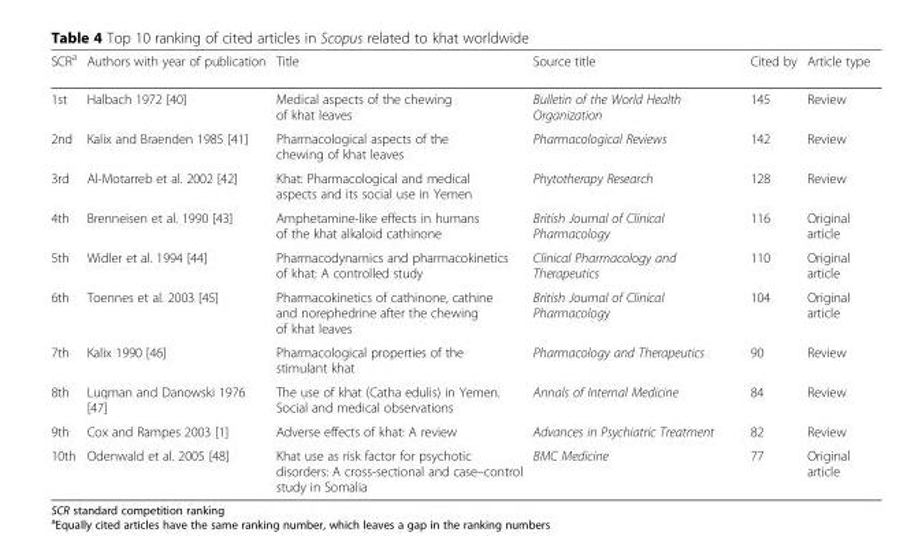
<table><thead><tr><td>SCR<sup>a</sup></td><td>Authors with year of publication</td><td>Title</td><td>Source title</td><td>Cited by</td><td>Article type</td></tr></thead><tbody><tr><td>1st</td><td>Halbach 1972 [40]</td><td>Medical aspects of the chewing of khat leaves</td><td>Bulletin of the World Health Organization</td><td>145</td><td>Review</td></tr><tr><td>2nd</td><td>Kalix and Braenden 1985 [41]</td><td>Pharmacological aspects of the chewing of khat leaves</td><td>Pharmacological Reviews</td><td>142</td><td>Review</td></tr><tr><td>3rd</td><td>Al-Motarreb et al. 2002 [42]</td><td>Khat: Pharmacological and medical aspects and its social use in Yemen</td><td>Phytotherapy Research</td><td>128</td><td>Review</td></tr><tr><td>4th</td><td>Brenneisen et al. 1990 [43]</td><td>Amphetamine-like effects in humans of the khat alkaloid cathinone</td><td>British Journal of Clinical Pharmacology</td><td>116</td><td>Original article</td></tr><tr><td>5th</td><td>Widler et al. 1994 [44]</td><td>Pharmacodynamics and pharmacokinetics of khat: A controlled study</td><td>Clinical Pharmacology and Therapeutics</td><td>110</td><td>Original article</td></tr><tr><td>6th</td><td>Toennes et al. 2003 [45]</td><td>Pharmacokinetics of cathinone, cathine and norephedrine after the chewing of khat leaves</td><td>British Journal of Clinical Pharmacology</td><td>104</td><td>Original article</td></tr><tr><td>7th</td><td>Kalix 1990 [46]</td><td>Pharmacological properties of the stimulant khat</td><td>Pharmacology and Therapeutics</td><td>90</td><td>Review</td></tr><tr><td>8th</td><td>Luqman and Danowski 1976 [47]</td><td>The use of khat (Catha edulis) in Yemen. Social and medical observations</td><td>Annals of Internal Medicine</td><td>84</td><td>Review</td></tr><tr><td>9th</td><td>Cox and Rampes 2003 [1]</td><td>Adverse effects of khat: A review</td><td>Advances in Psychiatric Treatment</td><td>82</td><td>Review</td></tr><tr><td>10th</td><td>Odenwald et al. 2005 [48]</td><td>Khat use as risk factor for psychotic disorders: A cross-sectional and case–control study in Somalia</td><td>BMC Medicine</td><td>77</td><td>Original article</td></tr></tbody></table>